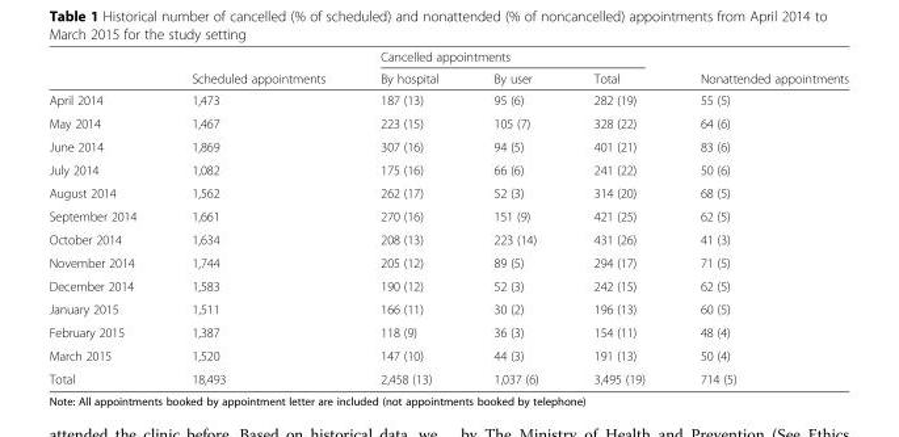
<table><thead><tr><td rowspan="2"></td><td rowspan="2">Scheduled appointments</td><td colspan="3">Cancelled appointments</td><td rowspan="2">Nonattended appointments</td></tr><tr><td>By hospital</td><td>By user</td><td>Total</td></tr></thead><tbody><tr><td>April 2014</td><td>1,473</td><td>187 (13)</td><td>95 (6)</td><td>282 (19)</td><td>55 (5)</td></tr><tr><td>May 2014</td><td>1,467</td><td>223 (15)</td><td>105 (7)</td><td>328 (22)</td><td>64 (6)</td></tr><tr><td>June 2014</td><td>1,869</td><td>307 (16)</td><td>94 (5)</td><td>401 (21)</td><td>83 (6)</td></tr><tr><td>July 2014</td><td>1,082</td><td>175 (16)</td><td>66 (6)</td><td>241 (22)</td><td>50 (6)</td></tr><tr><td>August 2014</td><td>1,562</td><td>262 (17)</td><td>52 (3)</td><td>314 (20)</td><td>68 (5)</td></tr><tr><td>September 2014</td><td>1,661</td><td>270 (16)</td><td>151 (9)</td><td>421 (25)</td><td>62 (5)</td></tr><tr><td>October 2014</td><td>1,634</td><td>208 (13)</td><td>223 (14)</td><td>431 (26)</td><td>41 (3)</td></tr><tr><td>November 2014</td><td>1,744</td><td>205 (12)</td><td>89 (5)</td><td>294 (17)</td><td>71 (5)</td></tr><tr><td>December 2014</td><td>1,583</td><td>190 (12)</td><td>52 (3)</td><td>242 (15)</td><td>62 (5)</td></tr><tr><td>January 2015</td><td>1,511</td><td>166 (11)</td><td>30 (2)</td><td>196 (13)</td><td>60 (5)</td></tr><tr><td>February 2015</td><td>1,387</td><td>118 (9)</td><td>36 (3)</td><td>154 (11)</td><td>48 (4)</td></tr><tr><td>March 2015</td><td>1,520</td><td>147 (10)</td><td>44 (3)</td><td>191 (13)</td><td>50 (4)</td></tr><tr><td>Total</td><td>18,493</td><td>2,458 (13)</td><td>1,037 (6)</td><td>3,495 (19)</td><td>714 (5)</td></tr></tbody></table>